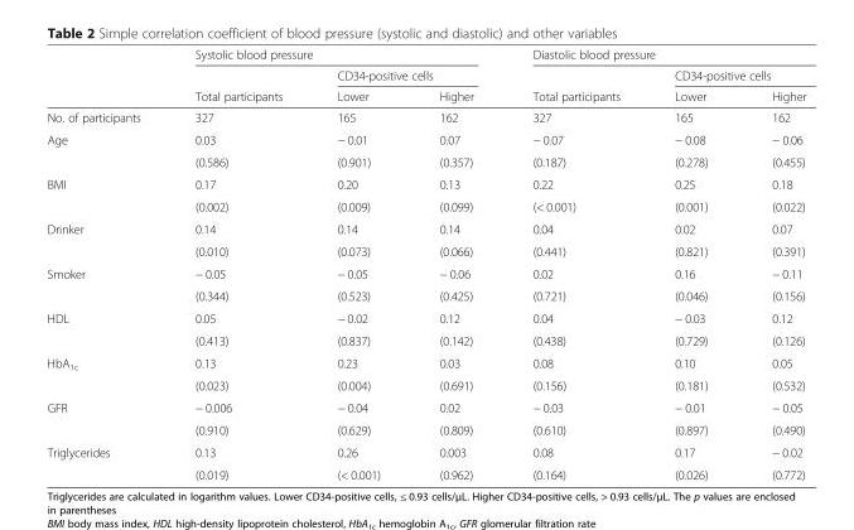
<table><thead><tr><td rowspan="3"></td><td colspan="3">Systolic blood pressure</td><td colspan="3">Diastolic blood pressure</td></tr><tr><td rowspan="2">Total participants</td><td colspan="2">CD34-positive cells</td><td rowspan="2">Total participants</td><td colspan="2">CD34-positive cells</td></tr><tr><td>Lower</td><td>Higher</td><td>Lower</td><td>Higher</td></tr></thead><tbody><tr><td>No. of participants</td><td>327</td><td>165</td><td>162</td><td>327</td><td>165</td><td>162</td></tr><tr><td rowspan="2">Age</td><td>0.03</td><td>− 0.01</td><td>0.07</td><td>− 0.07</td><td>− 0.08</td><td>− 0.06</td></tr><tr><td>(0.586)</td><td>(0.901)</td><td>(0.357)</td><td>(0.187)</td><td>(0.278)</td><td>(0.455)</td></tr><tr><td rowspan="2">BMI</td><td>0.17</td><td>0.20</td><td>0.13</td><td>0.22</td><td>0.25</td><td>0.18</td></tr><tr><td>(0.002)</td><td>(0.009)</td><td>(0.099)</td><td>(&lt; 0.001)</td><td>(0.001)</td><td>(0.022)</td></tr><tr><td rowspan="2">Drinker</td><td>0.14</td><td>0.14</td><td>0.14</td><td>0.04</td><td>0.02</td><td>0.07</td></tr><tr><td>(0.010)</td><td>(0.073)</td><td>(0.066)</td><td>(0.441)</td><td>(0.821)</td><td>(0.391)</td></tr><tr><td rowspan="2">Smoker</td><td>− 0.05</td><td>− 0.05</td><td>− 0.06</td><td>0.02</td><td>0.16</td><td>− 0.11</td></tr><tr><td>(0.344)</td><td>(0.523)</td><td>(0.425)</td><td>(0.721)</td><td>(0.046)</td><td>(0.156)</td></tr><tr><td rowspan="2">HDL</td><td>0.05</td><td>− 0.02</td><td>0.12</td><td>0.04</td><td>− 0.03</td><td>0.12</td></tr><tr><td>(0.413)</td><td>(0.837)</td><td>(0.142)</td><td>(0.438)</td><td>(0.729)</td><td>(0.126)</td></tr><tr><td rowspan="2">HbA<sub>1c</sub></td><td>0.13</td><td>0.23</td><td>0.03</td><td>0.08</td><td>0.10</td><td>0.05</td></tr><tr><td>(0.023)</td><td>(0.004)</td><td>(0.691)</td><td>(0.156)</td><td>(0.181)</td><td>(0.532)</td></tr><tr><td rowspan="2">GFR</td><td>− 0.006</td><td>− 0.04</td><td>0.02</td><td>− 0.03</td><td>− 0.01</td><td>− 0.05</td></tr><tr><td>(0.910)</td><td>(0.629)</td><td>(0.809)</td><td>(0.610)</td><td>(0.897)</td><td>(0.490)</td></tr><tr><td rowspan="2">Triglycerides</td><td>0.13</td><td>0.26</td><td>0.003</td><td>0.08</td><td>0.17</td><td>− 0.02</td></tr><tr><td>(0.019)</td><td>(&lt; 0.001)</td><td>(0.962)</td><td>(0.164)</td><td>(0.026)</td><td>(0.772)</td></tr></tbody></table>